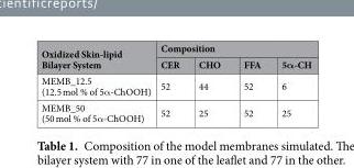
<table><thead><tr><td rowspan="2">Oxidized Skin-lipid Bilayer System</td><td colspan="4">Composition</td></tr><tr><td>CER</td><td>CHO</td><td>FFA</td><td>5α-CH</td></tr></thead><tbody><tr><td>MEMB_12.5 (12.5 mol % of 5α-ChOOH)</td><td>52</td><td>44</td><td>52</td><td>6</td></tr><tr><td>MEMB_50 (50 mol % of 5α-ChOOH)</td><td>52</td><td>25</td><td>52</td><td>25</td></tr></tbody></table>